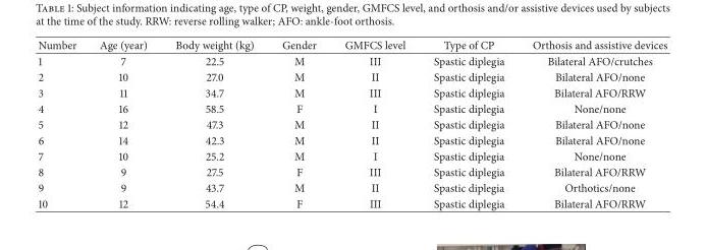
<table><thead><tr><td>Number</td><td>Age (year)</td><td>Body weight (kg)</td><td>Gender</td><td>GMFCS level</td><td>Type of CP</td><td>Orthosis and assistive devices</td></tr></thead><tbody><tr><td>1</td><td>7</td><td>22.5</td><td>M</td><td>III</td><td>Spastic diplegia</td><td>Bilateral AFO/crutches</td></tr><tr><td>2</td><td>10</td><td>27.0</td><td>M</td><td>II</td><td>Spastic diplegia</td><td>Bilateral AFO/none</td></tr><tr><td>3</td><td>11</td><td>34.7</td><td>M</td><td>III</td><td>Spastic diplegia</td><td>Bilateral AFO/RRW</td></tr><tr><td>4</td><td>16</td><td>58.5</td><td>F</td><td>I</td><td>Spastic diplegia</td><td>None/none</td></tr><tr><td>5</td><td>12</td><td>47.3</td><td>M</td><td>II</td><td>Spastic diplegia</td><td>Bilateral AFO/none</td></tr><tr><td>6</td><td>14</td><td>42.3</td><td>M</td><td>II</td><td>Spastic diplegia</td><td>Bilateral AFO/none</td></tr><tr><td>7</td><td>10</td><td>25.2</td><td>M</td><td>I</td><td>Spastic diplegia</td><td>None/none</td></tr><tr><td>8</td><td>9</td><td>27.5</td><td>F</td><td>III</td><td>Spastic diplegia</td><td>Bilateral AFO/RRW</td></tr><tr><td>9</td><td>9</td><td>43.7</td><td>M</td><td>II</td><td>Spastic diplegia</td><td>Orthotics/none</td></tr><tr><td>10</td><td>12</td><td>54.4</td><td>F</td><td>III</td><td>Spastic diplegia</td><td>Bilateral AFO/RRW</td></tr></tbody></table>